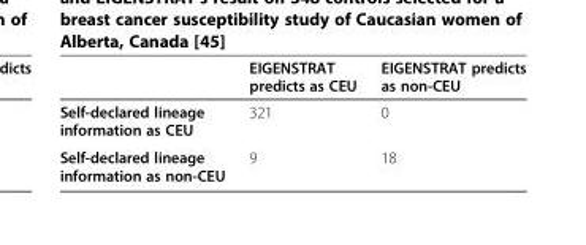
<table><thead><tr><td></td><td>EIGENSTRAT predicts as CEU</td><td>EIGENSTRAT predicts as non-CEU</td></tr></thead><tbody><tr><td>Self-declared lineage information as CEU</td><td>321</td><td>0</td></tr><tr><td>Self-declared lineage information as non-CEU</td><td>9</td><td>18</td></tr></tbody></table>